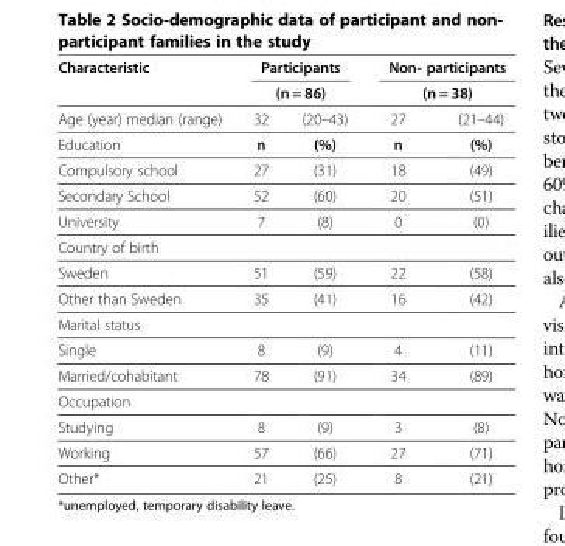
<table><thead><tr><td rowspan="3">Characteristic Age (year) median (range)</td><td rowspan="2" colspan="2">Participants (n = 86)</td><td rowspan="2" colspan="2">Non- participants (n = 38)</td></tr><tr></tr><tr><td>32</td><td>(20–43)</td><td>27</td><td>(21–44)</td></tr></thead><tbody><tr><td>Education</td><td>n</td><td>(%)</td><td>n</td><td>(%)</td></tr><tr><td>Compulsory school</td><td>27</td><td>(31)</td><td>18</td><td>(49)</td></tr><tr><td>Secondary School</td><td>52</td><td>(60)</td><td>20</td><td>(51)</td></tr><tr><td>University</td><td>7</td><td>(8)</td><td>0</td><td>(0)</td></tr><tr><td colspan="5">Country of birth</td></tr><tr><td>Sweden</td><td>51</td><td>(59)</td><td>22</td><td>(58)</td></tr><tr><td>Other than Sweden</td><td>35</td><td>(41)</td><td>16</td><td>(42)</td></tr><tr><td colspan="5">Marital status</td></tr><tr><td>Single</td><td>8</td><td>(9)</td><td>4</td><td>(11)</td></tr><tr><td>Married/cohabitant</td><td>78</td><td>(91)</td><td>34</td><td>(89)</td></tr><tr><td colspan="5">Occupation</td></tr><tr><td>Studying</td><td>8</td><td>(9)</td><td>3</td><td>(8)</td></tr><tr><td>Working</td><td>57</td><td>(66)</td><td>27</td><td>(71)</td></tr><tr><td>Other*</td><td>21</td><td>(25)</td><td>8</td><td>(21)</td></tr></tbody></table>